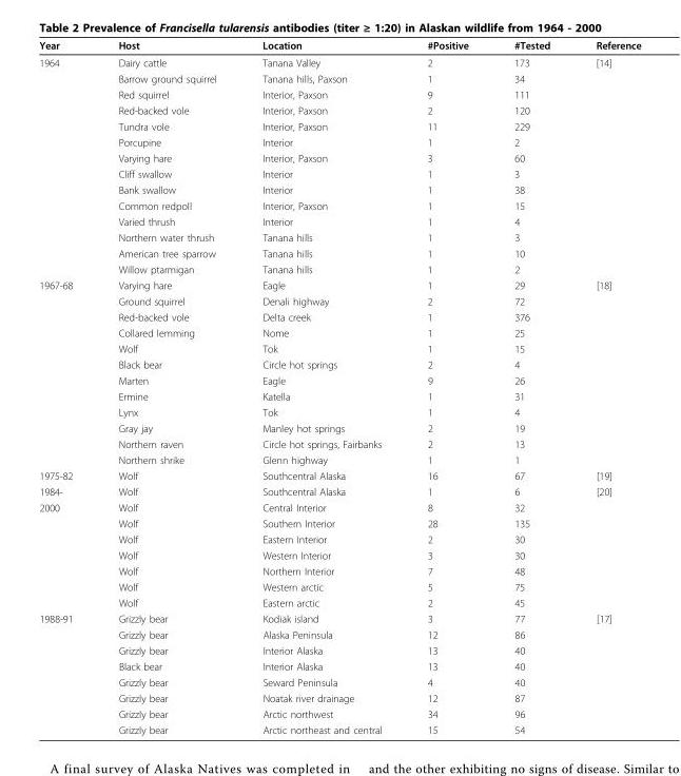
<table><thead><tr><td>Year</td><td>Host</td><td>Location</td><td>#Positive</td><td>#Tested</td><td>Reference</td></tr></thead><tbody><tr><td rowspan="14">1964</td><td>Dairy cattle</td><td>Tanana Valley</td><td>2</td><td>173</td><td>[14]</td></tr><tr><td>Barrow ground squirrel</td><td>Tanana hills, Paxson</td><td>1</td><td>34</td><td></td></tr><tr><td>Red squirrel</td><td>Interior, Paxson</td><td>9</td><td>111</td><td></td></tr><tr><td>Red-backed vole</td><td>Interior, Paxson</td><td>2</td><td>120</td><td></td></tr><tr><td>Tundra vole</td><td>Interior, Paxson</td><td>11</td><td>229</td><td></td></tr><tr><td>Porcupine</td><td>Interior</td><td>1</td><td>2</td><td></td></tr><tr><td>Varying hare</td><td>Interior, Paxson</td><td>3</td><td>60</td><td></td></tr><tr><td>Cliff swallow</td><td>Interior</td><td>1</td><td>3</td><td></td></tr><tr><td>Bank swallow</td><td>Interior</td><td>1</td><td>38</td><td></td></tr><tr><td>Common redpoll</td><td>Interior, Paxson</td><td>1</td><td>15</td><td></td></tr><tr><td>Varied thrush</td><td>Interior</td><td>1</td><td>4</td><td></td></tr><tr><td>Northern water thrush</td><td>Tanana hills</td><td>1</td><td>3</td><td></td></tr><tr><td>American tree sparrow</td><td>Tanana hills</td><td>1</td><td>10</td><td></td></tr><tr><td>Willow ptarmigan</td><td>Tanana hills</td><td>1</td><td>2</td><td></td></tr><tr><td rowspan="12">1967-68</td><td>Varying hare</td><td>Eagle</td><td>1</td><td>29</td><td>[18]</td></tr><tr><td>Ground squirrel</td><td>Denali highway</td><td>2</td><td>72</td><td></td></tr><tr><td>Red-backed vole</td><td>Delta creek</td><td>1</td><td>376</td><td></td></tr><tr><td>Collared lemming</td><td>Nome</td><td>1</td><td>25</td><td></td></tr><tr><td>Wolf</td><td>Tok</td><td>1</td><td>15</td><td></td></tr><tr><td>Black bear</td><td>Circle hot springs</td><td>2</td><td>4</td><td></td></tr><tr><td>Marten</td><td>Eagle</td><td>9</td><td>26</td><td></td></tr><tr><td>Ermine</td><td>Katella</td><td>1</td><td>31</td><td></td></tr><tr><td>Lynx</td><td>Tok</td><td>1</td><td>4</td><td></td></tr><tr><td>Gray jay</td><td>Manley hot springs</td><td>2</td><td>19</td><td></td></tr><tr><td>Northern raven</td><td>Circle hot springs, Fairbanks</td><td>2</td><td>13</td><td></td></tr><tr><td>Northern shrike</td><td>Glenn highway</td><td>1</td><td>1</td><td></td></tr><tr><td>1975-82</td><td>Wolf</td><td>Southcentral Alaska</td><td>16</td><td>67</td><td>[19]</td></tr><tr><td>1984-</td><td>Wolf</td><td>Southcentral Alaska</td><td>1</td><td>6</td><td>[20]</td></tr><tr><td rowspan="7">2000</td><td>Wolf</td><td>Central Interior</td><td>8</td><td>32</td><td></td></tr><tr><td>Wolf</td><td>Southern Interior</td><td>28</td><td>135</td><td></td></tr><tr><td>Wolf</td><td>Eastern Interior</td><td>2</td><td>30</td><td></td></tr><tr><td>Wolf</td><td>Western Interior</td><td>3</td><td>30</td><td></td></tr><tr><td>Wolf</td><td>Northern Interior</td><td>7</td><td>48</td><td></td></tr><tr><td>Wolf</td><td>Western arctic</td><td>5</td><td>75</td><td></td></tr><tr><td>Wolf</td><td>Eastern arctic</td><td>2</td><td>45</td><td></td></tr><tr><td rowspan="8">1988-91</td><td>Grizzly bear</td><td>Kodiak island</td><td>3</td><td>77</td><td>[17]</td></tr><tr><td>Grizzly bear</td><td>Alaska Peninsula</td><td>12</td><td>86</td><td></td></tr><tr><td>Grizzly bear</td><td>Interior Alaska</td><td>13</td><td>40</td><td></td></tr><tr><td>Black bear</td><td>Interior Alaska</td><td>13</td><td>40</td><td></td></tr><tr><td>Grizzly bear</td><td>Seward Peninsula</td><td>4</td><td>40</td><td></td></tr><tr><td>Grizzly bear</td><td>Noatak river drainage</td><td>12</td><td>87</td><td></td></tr><tr><td>Grizzly bear</td><td>Arctic northwest</td><td>34</td><td>96</td><td></td></tr><tr><td>Grizzly bear</td><td>Arctic northeast and central</td><td>15</td><td>54</td><td></td></tr></tbody></table>